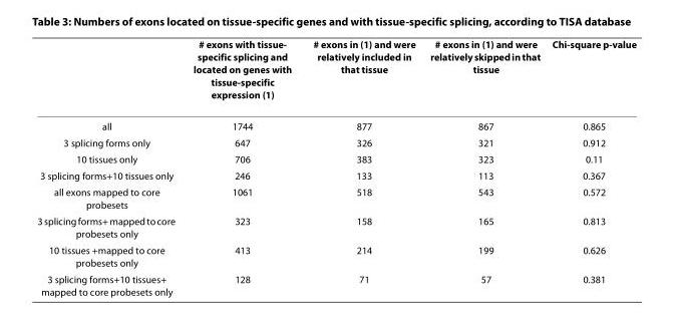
<table><thead><tr><td></td><td># exons with tissue- specific splicing and located on genes with tissue-specific expression (1)</td><td># exons in (1) and were relatively included in that tissue</td><td># exons in (1) and were relatively skipped in that tissue</td><td>Chi-square p-value</td></tr></thead><tbody><tr><td>all</td><td>1744</td><td>877</td><td>867</td><td>0.865</td></tr><tr><td>3 splicing forms only</td><td>647</td><td>326</td><td>321</td><td>0.912</td></tr><tr><td>10 tissues only</td><td>706</td><td>383</td><td>323</td><td>0.11</td></tr><tr><td>3 splicing forms+10 tissues only</td><td>246</td><td>133</td><td>113</td><td>0.367</td></tr><tr><td>all exons mapped to core probesets</td><td>1061</td><td>518</td><td>543</td><td>0.572</td></tr><tr><td>3 splicing forms+ mapped to core probesets only</td><td>323</td><td>158</td><td>165</td><td>0.813</td></tr><tr><td>10 tissues +mapped to core probesets only</td><td>413</td><td>214</td><td>199</td><td>0.626</td></tr><tr><td>3 splicing forms+10 tissues+ mapped to core probesets only</td><td>128</td><td>71</td><td>57</td><td>0.381</td></tr></tbody></table>